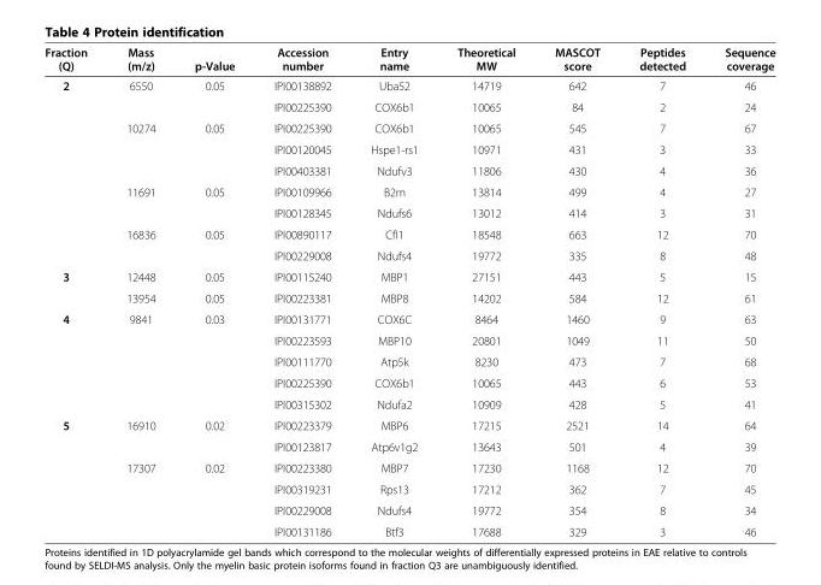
<table><thead><tr><td>Fraction (Q)</td><td>Mass (m/z)</td><td>p-Value</td><td>Accession number</td><td>Entry name</td><td>Theoretical MW</td><td>MASCOT score</td><td>Peptides detected</td><td>Sequence coverage</td></tr></thead><tbody><tr><td rowspan="9">2</td><td>6550</td><td>0.05</td><td>IPI00138892</td><td>Uba52</td><td>14719</td><td>642</td><td>7</td><td>46</td></tr><tr><td></td><td></td><td>IPI00225390</td><td>COX6b1</td><td>10065</td><td>84</td><td>2</td><td>24</td></tr><tr><td>10274</td><td>0.05</td><td>IPI00225390</td><td>COX6b1</td><td>10065</td><td>545</td><td>7</td><td>67</td></tr><tr><td></td><td></td><td>IPI00120045</td><td>Hspe1-rs1</td><td>10971</td><td>431</td><td>3</td><td>33</td></tr><tr><td></td><td></td><td>IPI00403381</td><td>Ndufv3</td><td>11806</td><td>430</td><td>4</td><td>36</td></tr><tr><td>11691</td><td>0.05</td><td>IPI00109966</td><td>B2m</td><td>13814</td><td>499</td><td>4</td><td>27</td></tr><tr><td></td><td></td><td>IPI00128345</td><td>Ndufs6</td><td>13012</td><td>414</td><td>3</td><td>31</td></tr><tr><td>16836</td><td>0.05</td><td>IPI00890117</td><td>CfI1</td><td>18548</td><td>663</td><td>12</td><td>70</td></tr><tr><td></td><td></td><td>IPI00229008</td><td>Ndufs4</td><td>19772</td><td>335</td><td>8</td><td>48</td></tr><tr><td rowspan="2">3</td><td>12448</td><td>0.05</td><td>IPI00115240</td><td>MBP1</td><td>27151</td><td>443</td><td>5</td><td>15</td></tr><tr><td>13954</td><td>0.05</td><td>IPI00223381</td><td>MBP8</td><td>14202</td><td>584</td><td>12</td><td>61</td></tr><tr><td rowspan="5">4</td><td>9841</td><td>0.03</td><td>IPI00131771</td><td>COX6C</td><td>8464</td><td>1460</td><td>9</td><td>63</td></tr><tr><td></td><td></td><td>IPI00223593</td><td>MBP10</td><td>20801</td><td>1049</td><td>11</td><td>50</td></tr><tr><td></td><td></td><td>IPI00111770</td><td>Atp5k</td><td>8230</td><td>473</td><td>7</td><td>68</td></tr><tr><td></td><td></td><td>IPI00225390</td><td>COX6b1</td><td>10065</td><td>443</td><td>6</td><td>53</td></tr><tr><td></td><td></td><td>IPI00315302</td><td>Ndufa2</td><td>10909</td><td>428</td><td>5</td><td>41</td></tr><tr><td rowspan="6">5</td><td>16910</td><td>0.02</td><td>IPI00223379</td><td>MBP6</td><td>17215</td><td>2521</td><td>14</td><td>64</td></tr><tr><td></td><td></td><td>IPI00123817</td><td>Atp6v1g2</td><td>13643</td><td>501</td><td>4</td><td>39</td></tr><tr><td>17307</td><td>0.02</td><td>IPI00223380</td><td>MBP7</td><td>17230</td><td>1168</td><td>12</td><td>70</td></tr><tr><td></td><td></td><td>IPI00319231</td><td>Rps13</td><td>17212</td><td>362</td><td>7</td><td>45</td></tr><tr><td></td><td></td><td>IPI00229008</td><td>Ndufs4</td><td>19772</td><td>354</td><td>8</td><td>34</td></tr><tr><td></td><td></td><td>IPI00131186</td><td>Btf3</td><td>17688</td><td>329</td><td>3</td><td>46</td></tr></tbody></table>